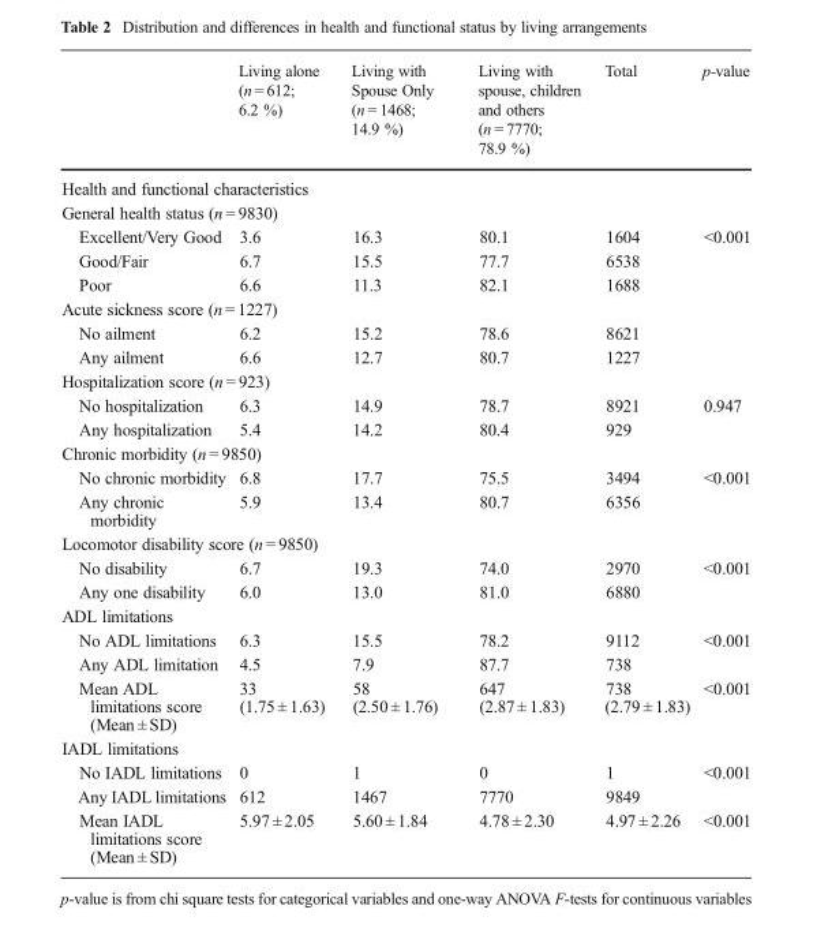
<table><thead><tr><td></td><td>Living alone (n = 612; 6.2 %)</td><td>Living with Spouse Only (n = 1468; 14.9 %)</td><td>Living with spouse, children and others (n = 7770; 78.9 %)</td><td>Total</td><td>p-value</td></tr></thead><tbody><tr><td colspan="6">Health and functional characteristics</td></tr><tr><td colspan="6">General health status (n = 9830)</td></tr><tr><td>Excellent/Very Good</td><td>3.6</td><td>16.3</td><td>80.1</td><td>1604</td><td rowspan="3">&lt;0.001</td></tr><tr><td>Good/Fair</td><td>6.7</td><td>15.5</td><td>77.7</td><td>6538</td></tr><tr><td>Poor</td><td>6.6</td><td>11.3</td><td>82.1</td><td>1688</td></tr><tr><td colspan="6">Acute sickness score (n = 1227)</td></tr><tr><td>No ailment</td><td>6.2</td><td>15.2</td><td>78.6</td><td>8621</td><td></td></tr><tr><td>Any ailment</td><td>6.6</td><td>12.7</td><td>80.7</td><td>1227</td><td></td></tr><tr><td colspan="6">Hospitalization score (n = 923)</td></tr><tr><td>No hospitalization</td><td>6.3</td><td>14.9</td><td>78.7</td><td>8921</td><td rowspan="2">0.947</td></tr><tr><td>Any hospitalization</td><td>5.4</td><td>14.2</td><td>80.4</td><td>929</td></tr><tr><td colspan="6">Chronic morbidity (n = 9850)</td></tr><tr><td>No chronic morbidity</td><td>6.8</td><td>17.7</td><td>75.5</td><td>3494</td><td rowspan="2">&lt;0.001</td></tr><tr><td>Any chronic morbidity</td><td>5.9</td><td>13.4</td><td>80.7</td><td>6356</td></tr><tr><td colspan="6">Locomotor disability score (n = 9850)</td></tr><tr><td>No disability</td><td>6.7</td><td>19.3</td><td>74.0</td><td>2970</td><td rowspan="2">&lt;0.001</td></tr><tr><td>Any one disability</td><td>6.0</td><td>13.0</td><td>81.0</td><td>6880</td></tr><tr><td colspan="6">ADL limitations</td></tr><tr><td>No ADL limitations</td><td>6.3</td><td>15.5</td><td>78.2</td><td>9112</td><td rowspan="2">&lt;0.001</td></tr><tr><td>Any ADL limitation</td><td>4.5</td><td>7.9</td><td>87.7</td><td>738</td></tr><tr><td>Mean ADL limitations score (Mean ± SD)</td><td>33 (1.75 ± 1.63)</td><td>58 (2.50 ± 1.76)</td><td>647 (2.87 ± 1.83)</td><td>738 (2.79 ± 1.83)</td><td>&lt;0.001</td></tr><tr><td colspan="6">IADL limitations</td></tr><tr><td>No IADL limitations</td><td>0</td><td>1</td><td>0</td><td>1</td><td rowspan="2">&lt;0.001</td></tr><tr><td>Any IADL limitations</td><td>612</td><td>1467</td><td>7770</td><td>9849</td></tr><tr><td>Mean IADL limitations score (Mean ± SD)</td><td>5.97 ± 2.05</td><td>5.60 ± 1.84</td><td>4.78 ± 2.30</td><td>4.97 ± 2.26</td><td>&lt;0.001</td></tr></tbody></table>